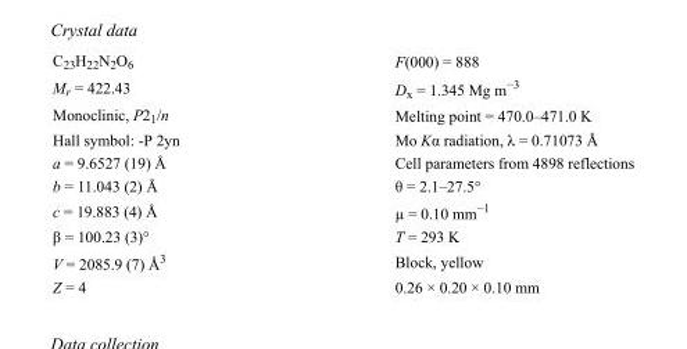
<table><tbody><tr><td>C<sub>23</sub>H<sub>22</sub>N<sub>2</sub>O<sub>6</sub></td><td>F(000) = 888</td></tr><tr><td>M<sub>r</sub> = 422.43</td><td>D<sub>x</sub> = 1.345 Mg m<sup>−3</sup></td></tr><tr><td>Monoclinic, P2<sub>1</sub>/n</td><td>Melting point = 470.0–471.0 K</td></tr><tr><td>Hall symbol: -P 2yn</td><td>Mo Kα radiation, λ = 0.71073 Å</td></tr><tr><td>a = 9.6527 (19) Å</td><td>Cell parameters from 4898 reflections</td></tr><tr><td>b = 11.043 (2) Å</td><td>θ = 2.1–27.5°</td></tr><tr><td>c = 19.883 (4) Å</td><td>µ = 0.10 mm<sup>−1</sup></td></tr><tr><td>β = 100.23 (3)°</td><td>T = 293 K</td></tr><tr><td>V = 2085.9 (7) Å<sup>3</sup></td><td>Block, yellow</td></tr><tr><td>Z = 4</td><td>0.26 × 0.20 × 0.10 mm</td></tr></tbody></table>